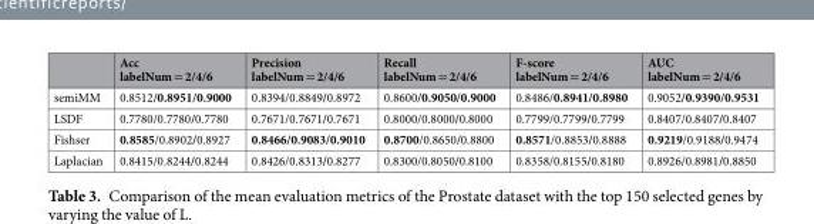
<table><thead><tr><td></td><td>Acc labelNum = 2/4/6</td><td>Precision labelNum = 2/4/6</td><td>Recall labelNum = 2/4/6</td><td>F-score labelNum = 2/4/6</td><td>AUC labelNum = 2/4/6</td></tr></thead><tbody><tr><td>semiMM</td><td>0.8512/0.8951/0.9000</td><td>0.8394/0.8849/0.8972</td><td>0.8600/0.9050/0.9000</td><td>0.8486/0.8941/0.8980</td><td>0.9052/0.9390/0.9531</td></tr><tr><td>LSDF</td><td>0.7780/0.7780/0.7780</td><td>0.7671/0.7671/0.7671</td><td>0.8000/0.8000/0.8000</td><td>0.7799/0.7799/0.7799</td><td>0.8407/0.8407/0.8407</td></tr><tr><td>Fishser</td><td>0.8585/0.8902/0.8927</td><td>0.8466/0.9083/0.9010</td><td>0.8700/0.8650/0.8800</td><td>0.8571/0.8853/0.8888</td><td>0.9219/0.9188/0.9474</td></tr><tr><td>Laplacian</td><td>0.8415/0.8244/0.8244</td><td>0.8426/0.8313/0.8277</td><td>0.8300/0.8050/0.8100</td><td>0.8358/0.8155/0.8180</td><td>0.8926/0.8981/0.8850</td></tr></tbody></table>